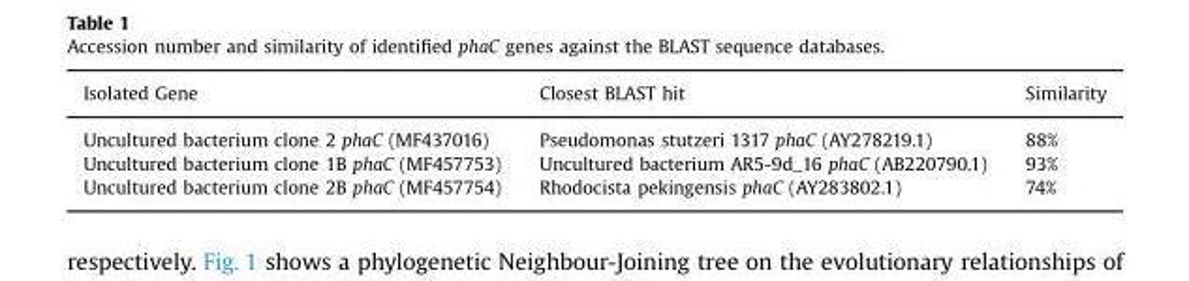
<table><thead><tr><td>Isolated Gene</td><td>Closest BLAST hit</td><td>Similarity</td></tr></thead><tbody><tr><td>Uncultured bacterium clone 2 phaC (MF437016)</td><td>Pseudomonas stutzeri 1317 phaC (AY278219.1)</td><td>88%</td></tr><tr><td>Uncultured bacterium clone 1B phaC (MF457753)</td><td>Uncultured bacterium AR5-9d_16 phaC (AB220790.1)</td><td>93%</td></tr><tr><td>Uncultured bacterium clone 2B phaC (MF457754)</td><td>Rhodocista pekingensis phaC (AY283802.1)</td><td>74%</td></tr></tbody></table>